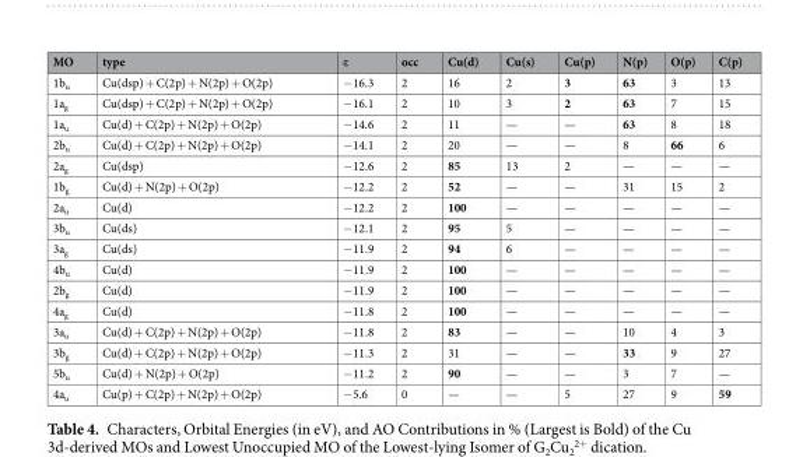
<table><thead><tr><td>MO</td><td>type</td><td>ε</td><td>occ</td><td>Cu(d)</td><td>Cu(s)</td><td>Cu(p)</td><td>N(p)</td><td>O(p)</td><td>C(p)</td></tr></thead><tbody><tr><td>1b<sub>u</sub></td><td>Cu(dsp) + C(2p) + N(2p) + O(2p)</td><td>−16.3</td><td>2</td><td>16</td><td>2</td><td>3</td><td>63</td><td>3</td><td>13</td></tr><tr><td>1a<sub>g</sub></td><td>Cu(dsp) + C(2p) + N(2p) + O(2p)</td><td>−16.1</td><td>2</td><td>10</td><td>3</td><td>2</td><td>63</td><td>7</td><td>15</td></tr><tr><td>1a<sub>u</sub></td><td>Cu(d) + C(2p) + N(2p) + O(2p)</td><td>−14.6</td><td>2</td><td>11</td><td>—</td><td>—</td><td>63</td><td>8</td><td>18</td></tr><tr><td>2b<sub>u</sub></td><td>Cu(d) + C(2p) + N(2p) + O(2p)</td><td>−14.1</td><td>2</td><td>20</td><td>—</td><td>—</td><td>8</td><td>66</td><td>6</td></tr><tr><td>2a<sub>g</sub></td><td>Cu(dsp)</td><td>−12.6</td><td>2</td><td>85</td><td>13</td><td>2</td><td>—</td><td>—</td><td>—</td></tr><tr><td>1b<sub>g</sub></td><td>Cu(d) + N(2p) + O(2p)</td><td>−12.2</td><td>2</td><td>52</td><td>—</td><td>—</td><td>31</td><td>15</td><td>2</td></tr><tr><td>2a<sub>u</sub></td><td>Cu(d)</td><td>−12.2</td><td>2</td><td>100</td><td>—</td><td>—</td><td>—</td><td>—</td><td>—</td></tr><tr><td>3b<sub>u</sub></td><td>Cu(ds)</td><td>−12.1</td><td>2</td><td>95</td><td>5</td><td>—</td><td>—</td><td>—</td><td>—</td></tr><tr><td>3a<sub>g</sub></td><td>Cu(ds)</td><td>−11.9</td><td>2</td><td>94</td><td>6</td><td>—</td><td>—</td><td>—</td><td>—</td></tr><tr><td>4b<sub>u</sub></td><td>Cu(d)</td><td>−11.9</td><td>2</td><td>100</td><td>—</td><td>—</td><td>—</td><td>—</td><td>—</td></tr><tr><td>2b<sub>g</sub></td><td>Cu(d)</td><td>−11.9</td><td>2</td><td>100</td><td>—</td><td>—</td><td>—</td><td>—</td><td>—</td></tr><tr><td>4a<sub>g</sub></td><td>Cu(d)</td><td>−11.8</td><td>2</td><td>100</td><td>—</td><td>—</td><td>—</td><td>—</td><td>—</td></tr><tr><td>3a<sub>u</sub></td><td>Cu(d) + C(2p) + N(2p) + O(2p)</td><td>−11.8</td><td>2</td><td>83</td><td>—</td><td>—</td><td>10</td><td>4</td><td>3</td></tr><tr><td>3b<sub>g</sub></td><td>Cu(d) + C(2p) + N(2p) + O(2p)</td><td>−11.3</td><td>2</td><td>31</td><td>—</td><td>—</td><td>33</td><td>9</td><td>27</td></tr><tr><td>5b<sub>u</sub></td><td>Cu(d) + N(2p) + O(2p)</td><td>−11.2</td><td>2</td><td>90</td><td>—</td><td>—</td><td>3</td><td>7</td><td>—</td></tr><tr><td>4a<sub>u</sub></td><td>Cu(p) + C(2p) + N(2p) + O(2p)</td><td>−5.6</td><td>0</td><td>—</td><td>—</td><td>5</td><td>27</td><td>9</td><td>59</td></tr></tbody></table>